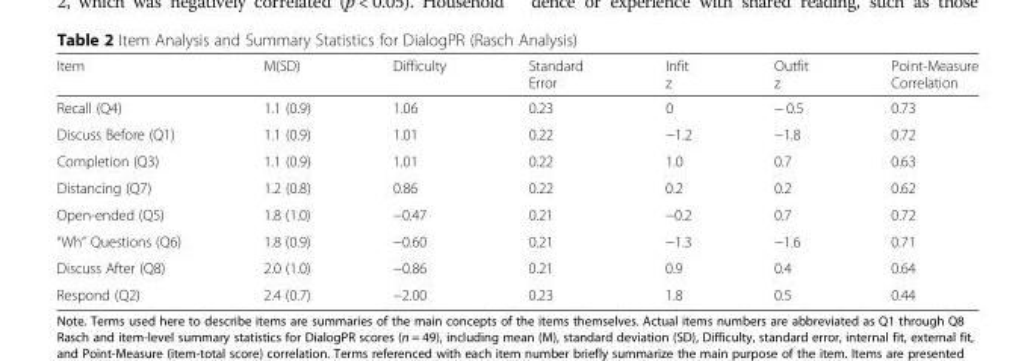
<table><thead><tr><td>Item</td><td>M(SD)</td><td>Difficulty</td><td>Standard Error</td><td>Infit z</td><td>Outfit z</td><td>Point-Measure Correlation</td></tr></thead><tbody><tr><td>Recall (Q4)</td><td>1.1 (0.9)</td><td>1.06</td><td>0.23</td><td>0</td><td>− 0.5</td><td>0.73</td></tr><tr><td>Discuss Before (Q1)</td><td>1.1 (0.9)</td><td>1.01</td><td>0.22</td><td>−1.2</td><td>−1.8</td><td>0.72</td></tr><tr><td>Completion (Q3)</td><td>1.1 (0.9)</td><td>1.01</td><td>0.22</td><td>1.0</td><td>0.7</td><td>0.63</td></tr><tr><td>Distancing (Q7)</td><td>1.2 (0.8)</td><td>0.86</td><td>0.22</td><td>0.2</td><td>0.2</td><td>0.62</td></tr><tr><td>Open-ended (Q5)</td><td>1.8 (1.0)</td><td>−0.47</td><td>0.21</td><td>−0.2</td><td>0.7</td><td>0.72</td></tr><tr><td>“Wh” Questions (Q6)</td><td>1.8 (0.9)</td><td>−0.60</td><td>0.21</td><td>−1.3</td><td>−1.6</td><td>0.71</td></tr><tr><td>Discuss After (Q8)</td><td>2.0 (1.0)</td><td>−0.86</td><td>0.21</td><td>0.9</td><td>0.4</td><td>0.64</td></tr><tr><td>Respond (Q2)</td><td>2.4 (0.7)</td><td>−2.00</td><td>0.23</td><td>1.8</td><td>0.5</td><td>0.44</td></tr></tbody></table>